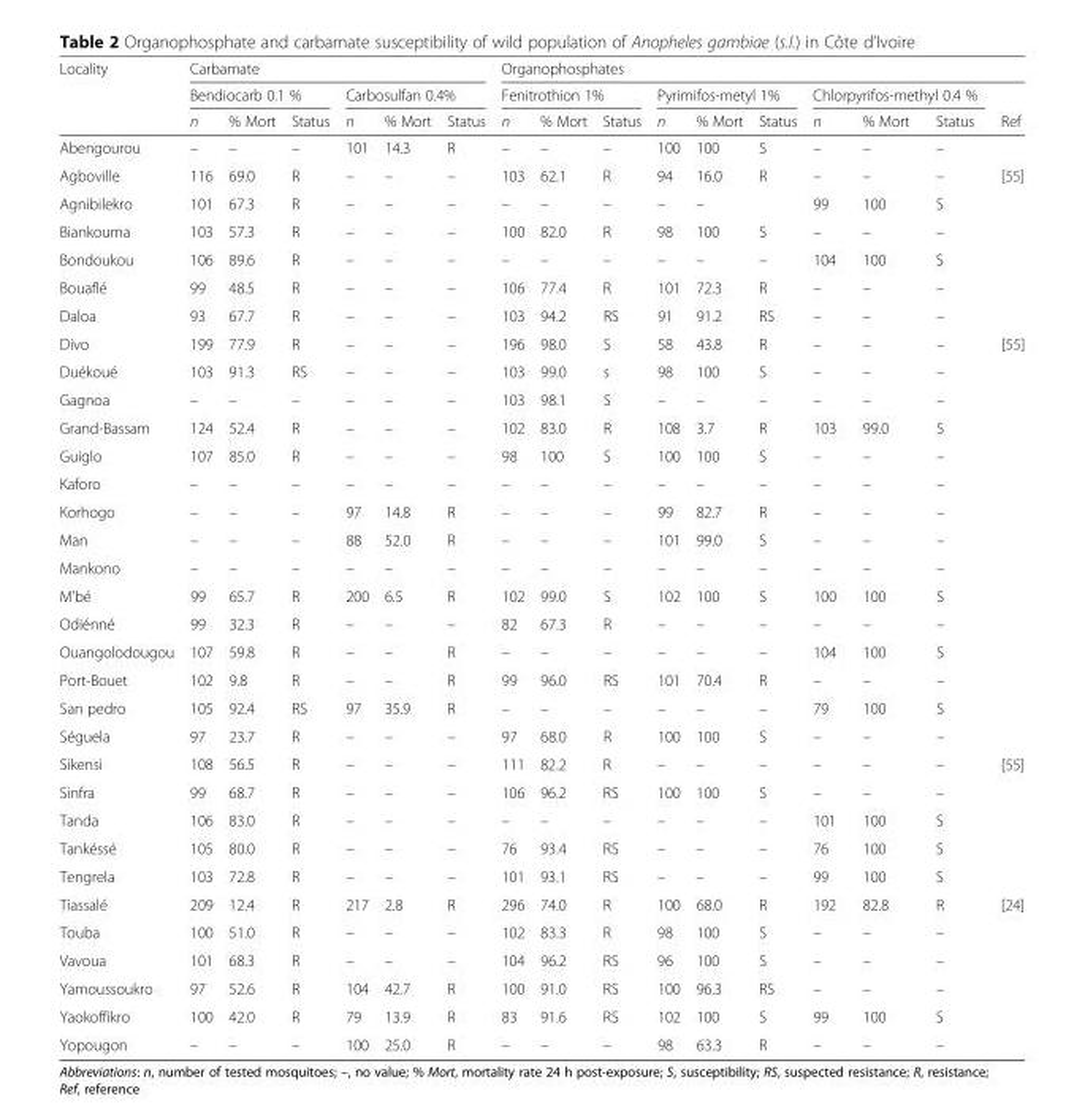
<table><thead><tr><td rowspan="3">Locality</td><td colspan="6">Carbamate</td><td colspan="10">Organophosphates</td></tr><tr><td colspan="3">Bendiocarb 0.1 %</td><td colspan="3">Carbosulfan 0.4%</td><td colspan="3">Fenitrothion 1%</td><td colspan="3">Pyrimifos-metyl 1%</td><td colspan="3">Chlorpyrifos-methyl 0.4 %</td><td rowspan="2">Ref</td></tr><tr><td>n</td><td>% Mort</td><td>Status</td><td>n</td><td>% Mort</td><td>Status</td><td>n</td><td>% Mort</td><td>Status</td><td>n</td><td>% Mort</td><td>Status</td><td>n</td><td>% Mort</td><td>Status</td></tr></thead><tbody><tr><td>Abengourou</td><td>–</td><td>–</td><td>–</td><td>101</td><td>14.3</td><td>R</td><td>–</td><td>–</td><td>–</td><td>100</td><td>100</td><td>S</td><td>–</td><td>–</td><td>–</td><td></td></tr><tr><td>Agboville</td><td>116</td><td>69.0</td><td>R</td><td>–</td><td>–</td><td>–</td><td>103</td><td>62.1</td><td>R</td><td>94</td><td>16.0</td><td>R</td><td>–</td><td>–</td><td>–</td><td>[55]</td></tr><tr><td>Agnibilekro</td><td>101</td><td>67.3</td><td>R</td><td>–</td><td>–</td><td>–</td><td>–</td><td>–</td><td>–</td><td>–</td><td>–</td><td></td><td>99</td><td>100</td><td>S</td><td></td></tr><tr><td>Biankouma</td><td>103</td><td>57.3</td><td>R</td><td>–</td><td>–</td><td>–</td><td>100</td><td>82.0</td><td>R</td><td>98</td><td>100</td><td>S</td><td>–</td><td>–</td><td>–</td><td></td></tr><tr><td>Bondoukou</td><td>106</td><td>89.6</td><td>R</td><td>–</td><td>–</td><td>–</td><td>–</td><td>–</td><td>–</td><td>–</td><td>–</td><td>–</td><td>104</td><td>100</td><td>S</td><td></td></tr><tr><td>Bouaflé</td><td>99</td><td>48.5</td><td>R</td><td>–</td><td>–</td><td>–</td><td>106</td><td>77.4</td><td>R</td><td>101</td><td>72.3</td><td>R</td><td>–</td><td>–</td><td>–</td><td></td></tr><tr><td>Daloa</td><td>93</td><td>67.7</td><td>R</td><td>–</td><td>–</td><td>–</td><td>103</td><td>94.2</td><td>RS</td><td>91</td><td>91.2</td><td>RS</td><td>–</td><td>–</td><td>–</td><td></td></tr><tr><td>Divo</td><td>199</td><td>77.9</td><td>R</td><td>–</td><td>–</td><td>–</td><td>196</td><td>98.0</td><td>S</td><td>58</td><td>43.8</td><td>R</td><td>–</td><td>–</td><td>–</td><td>[55]</td></tr><tr><td>Duékoué</td><td>103</td><td>91.3</td><td>RS</td><td>–</td><td>–</td><td>–</td><td>103</td><td>99.0</td><td>s</td><td>98</td><td>100</td><td>S</td><td>–</td><td>–</td><td>–</td><td></td></tr><tr><td>Gagnoa</td><td>–</td><td>–</td><td>–</td><td>–</td><td>–</td><td>–</td><td>103</td><td>98.1</td><td>S</td><td>–</td><td>–</td><td>–</td><td>–</td><td>–</td><td>–</td><td></td></tr><tr><td>Grand-Bassam</td><td>124</td><td>52.4</td><td>R</td><td>–</td><td>–</td><td>–</td><td>102</td><td>83.0</td><td>R</td><td>108</td><td>3.7</td><td>R</td><td>103</td><td>99.0</td><td>S</td><td></td></tr><tr><td>Guiglo</td><td>107</td><td>85.0</td><td>R</td><td>–</td><td>–</td><td>–</td><td>98</td><td>100</td><td>S</td><td>100</td><td>100</td><td>S</td><td>–</td><td>–</td><td>–</td><td></td></tr><tr><td>Kaforo</td><td>–</td><td>–</td><td>–</td><td>–</td><td>–</td><td>–</td><td>–</td><td>–</td><td>–</td><td>–</td><td>–</td><td>–</td><td>–</td><td>–</td><td>–</td><td></td></tr><tr><td>Korhogo</td><td>–</td><td>–</td><td>–</td><td>97</td><td>14.8</td><td>R</td><td>–</td><td>–</td><td>–</td><td>99</td><td>82.7</td><td>R</td><td>–</td><td>–</td><td>–</td><td></td></tr><tr><td>Man</td><td>–</td><td>–</td><td>–</td><td>88</td><td>52.0</td><td>R</td><td>–</td><td>–</td><td>–</td><td>101</td><td>99.0</td><td>S</td><td>–</td><td>–</td><td>–</td><td></td></tr><tr><td>Mankono</td><td>–</td><td>–</td><td>–</td><td>–</td><td>–</td><td>–</td><td>–</td><td>–</td><td>–</td><td>–</td><td>–</td><td>–</td><td>–</td><td>–</td><td>–</td><td></td></tr><tr><td>M&#x27;bé</td><td>99</td><td>65.7</td><td>R</td><td>200</td><td>6.5</td><td>R</td><td>102</td><td>99.0</td><td>S</td><td>102</td><td>100</td><td>S</td><td>100</td><td>100</td><td>S</td><td></td></tr><tr><td>Odiénné</td><td>99</td><td>32.3</td><td>R</td><td>–</td><td>–</td><td>–</td><td>82</td><td>67.3</td><td>R</td><td>–</td><td>–</td><td>–</td><td>–</td><td>–</td><td>–</td><td></td></tr><tr><td>Ouangolodougou</td><td>107</td><td>59.8</td><td>R</td><td>–</td><td>–</td><td>R</td><td>–</td><td>–</td><td>–</td><td>–</td><td>–</td><td>–</td><td>104</td><td>100</td><td>S</td><td></td></tr><tr><td>Port-Bouet</td><td>102</td><td>9.8</td><td>R</td><td>–</td><td>–</td><td>R</td><td>99</td><td>96.0</td><td>RS</td><td>101</td><td>70.4</td><td>R</td><td>–</td><td>–</td><td>–</td><td></td></tr><tr><td>San pedro</td><td>105</td><td>92.4</td><td>RS</td><td>97</td><td>35.9</td><td>R</td><td>–</td><td>–</td><td>–</td><td>–</td><td>–</td><td>–</td><td>79</td><td>100</td><td>S</td><td></td></tr><tr><td>Séguela</td><td>97</td><td>23.7</td><td>R</td><td>–</td><td>–</td><td>–</td><td>97</td><td>68.0</td><td>R</td><td>100</td><td>100</td><td>S</td><td>–</td><td>–</td><td>–</td><td></td></tr><tr><td>Sikensi</td><td>108</td><td>56.5</td><td>R</td><td>–</td><td>–</td><td>–</td><td>111</td><td>82.2</td><td>R</td><td>–</td><td>–</td><td>–</td><td>–</td><td>–</td><td>–</td><td>[55]</td></tr><tr><td>Sinfra</td><td>99</td><td>68.7</td><td>R</td><td>–</td><td>–</td><td>–</td><td>106</td><td>96.2</td><td>RS</td><td>100</td><td>100</td><td>S</td><td>–</td><td>–</td><td>–</td><td></td></tr><tr><td>Tanda</td><td>106</td><td>83.0</td><td>R</td><td>–</td><td>–</td><td>–</td><td>–</td><td>–</td><td>–</td><td>–</td><td>–</td><td>–</td><td>101</td><td>100</td><td>S</td><td></td></tr><tr><td>Tankéssé</td><td>105</td><td>80.0</td><td>R</td><td>–</td><td>–</td><td>–</td><td>76</td><td>93.4</td><td>RS</td><td>–</td><td>–</td><td>–</td><td>76</td><td>100</td><td>S</td><td></td></tr><tr><td>Tengrela</td><td>103</td><td>72.8</td><td>R</td><td>–</td><td>–</td><td>–</td><td>101</td><td>93.1</td><td>RS</td><td>–</td><td>–</td><td>–</td><td>99</td><td>100</td><td>S</td><td></td></tr><tr><td>Tiassalé</td><td>209</td><td>12.4</td><td>R</td><td>217</td><td>2.8</td><td>R</td><td>296</td><td>74.0</td><td>R</td><td>100</td><td>68.0</td><td>R</td><td>192</td><td>82.8</td><td>R</td><td>[24]</td></tr><tr><td>Touba</td><td>100</td><td>51.0</td><td>R</td><td>–</td><td>–</td><td>–</td><td>102</td><td>83.3</td><td>R</td><td>98</td><td>100</td><td>S</td><td>–</td><td>–</td><td>–</td><td></td></tr><tr><td>Vavoua</td><td>101</td><td>68.3</td><td>R</td><td>–</td><td>–</td><td>–</td><td>104</td><td>96.2</td><td>RS</td><td>96</td><td>100</td><td>S</td><td>–</td><td>–</td><td>–</td><td></td></tr><tr><td>Yamoussoukro</td><td>97</td><td>52.6</td><td>R</td><td>104</td><td>42.7</td><td>R</td><td>100</td><td>91.0</td><td>RS</td><td>100</td><td>96.3</td><td>RS</td><td>–</td><td>–</td><td>–</td><td></td></tr><tr><td>Yaokoffikro</td><td>100</td><td>42.0</td><td>R</td><td>79</td><td>13.9</td><td>R</td><td>83</td><td>91.6</td><td>RS</td><td>102</td><td>100</td><td>S</td><td>99</td><td>100</td><td>S</td><td></td></tr><tr><td>Yopougon</td><td>–</td><td>–</td><td>–</td><td>100</td><td>25.0</td><td>R</td><td>–</td><td>–</td><td>–</td><td>98</td><td>63.3</td><td>R</td><td>–</td><td>–</td><td>–</td><td></td></tr></tbody></table>